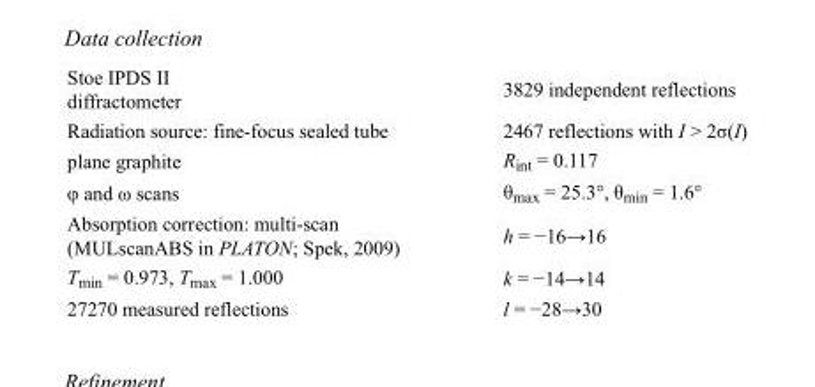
<table><tbody><tr><td>Stoe IPDS II diffractometer</td><td>3829 independent reflections</td></tr><tr><td>Radiation source: fine-focus sealed tube</td><td>2467 reflections with I &gt; 2σ(I)</td></tr><tr><td>plane graphite</td><td>R<sub>int</sub> = 0.117</td></tr><tr><td>φ and ω scans</td><td>θ<sub>max</sub> = 25.3°, θ<sub>min</sub> = 1.6°</td></tr><tr><td>Absorption correction: multi-scan (MULscanABS in PLATON; Spek, 2009)</td><td>h = −16→16</td></tr><tr><td>T<sub>min</sub> = 0.973, T<sub>max</sub> = 1.000</td><td>k = −14→14</td></tr><tr><td>27270 measured reflections</td><td>l = −28→30</td></tr></tbody></table>